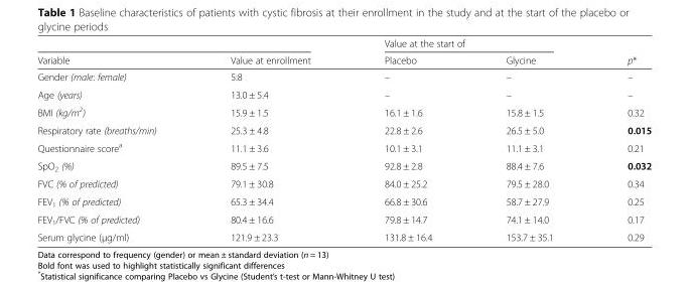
<table><thead><tr><td rowspan="2">Variable</td><td rowspan="2">Value at enrollment</td><td colspan="2">Value at the start of</td><td rowspan="2">p*</td></tr><tr><td>Placebo</td><td>Glycine</td></tr></thead><tbody><tr><td>Gender (male: female)</td><td>5:8</td><td>–</td><td>–</td><td>–</td></tr><tr><td>Age (years)</td><td>13.0 ± 5.4</td><td>–</td><td>–</td><td>–</td></tr><tr><td>BMI (kg/m<sup>2</sup>)</td><td>15.9 ± 1.5</td><td>16.1 ± 1.6</td><td>15.8 ± 1.5</td><td>0.32</td></tr><tr><td>Respiratory rate (breaths/min)</td><td>25.3 ± 4.8</td><td>22.8 ± 2.6</td><td>26.5 ± 5.0</td><td>0.015</td></tr><tr><td>Questionnaire score<sup>a</sup></td><td>11.1 ± 3.6</td><td>10.1 ± 3.1</td><td>11.1 ± 3.1</td><td>0.21</td></tr><tr><td>SpO<sub>2</sub> (%)</td><td>89.5 ± 7.5</td><td>92.8 ± 2.8</td><td>88.4 ± 7.6</td><td>0.032</td></tr><tr><td>FVC (% of predicted)</td><td>79.1 ± 30.8</td><td>84.0 ± 25.2</td><td>79.5 ± 28.0</td><td>0.34</td></tr><tr><td>FEV<sub>1</sub> (% of predicted)</td><td>65.3 ± 34.4</td><td>66.8 ± 30.6</td><td>58.7 ± 27.9</td><td>0.25</td></tr><tr><td>FEV<sub>1</sub>/FVC (% of predicted)</td><td>80.4 ± 16.6</td><td>79.8 ± 14.7</td><td>74.1 ± 14.0</td><td>0.17</td></tr><tr><td>Serum glycine (μg/ml)</td><td>121.9 ± 23.3</td><td>131.8 ± 16.4</td><td>153.7 ± 35.1</td><td>0.29</td></tr></tbody></table>